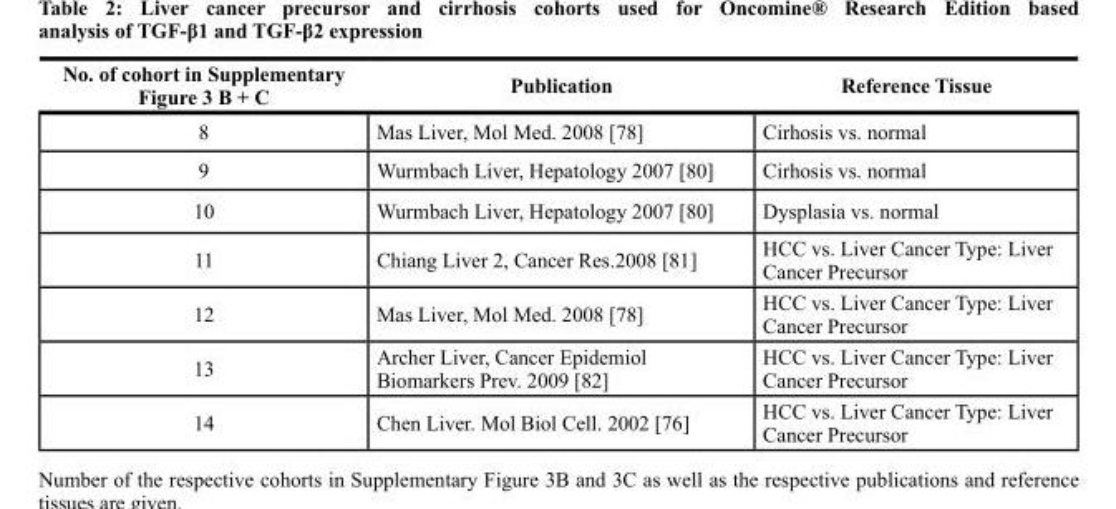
<table><thead><tr><td>No. of cohort in Supplementary Figure 3 B + C</td><td>Publication</td><td>Reference Tissue</td></tr></thead><tbody><tr><td>8</td><td>Mas Liver, Mol Med. 2008 [78]</td><td>Cirhosis vs. normal</td></tr><tr><td>9</td><td>Wurmbach Liver, Hepatology 2007 [80]</td><td>Cirhosis vs. normal</td></tr><tr><td>10</td><td>Wurmbach Liver, Hepatology 2007 [80]</td><td>Dysplasia vs. normal</td></tr><tr><td>11</td><td>Chiang Liver 2, Cancer Res.2008 [81]</td><td>HCC vs. Liver Cancer Type: Liver Cancer Precursor</td></tr><tr><td>12</td><td>Mas Liver, Mol Med. 2008 [78]</td><td>HCC vs. Liver Cancer Type: Liver Cancer Precursor</td></tr><tr><td>13</td><td>Archer Liver, Cancer Epidemiol Biomarkers Prev. 2009 [82]</td><td>HCC vs. Liver Cancer Type: Liver Cancer Precursor</td></tr><tr><td>14</td><td>Chen Liver. Mol Biol Cell. 2002 [76]</td><td>HCC vs. Liver Cancer Type: Liver Cancer Precursor</td></tr></tbody></table>